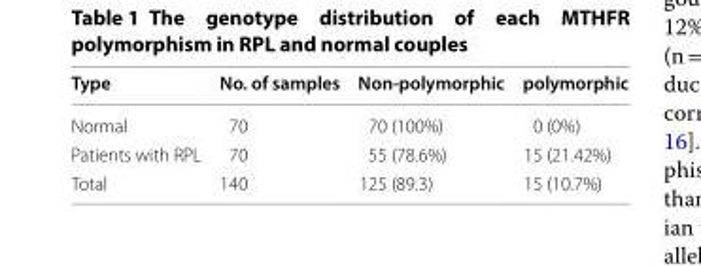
<table><thead><tr><td>Type</td><td>No. of samples</td><td>Non-polymorphic</td><td>polymorphic</td></tr></thead><tbody><tr><td>Normal</td><td>70</td><td>70 (100%)</td><td>0 (0%)</td></tr><tr><td>Patients with RPL</td><td>70</td><td>55 (78.6%)</td><td>15 (21.42%)</td></tr><tr><td>Total</td><td>140</td><td>125 (89.3)</td><td>15 (10.7%)</td></tr></tbody></table>